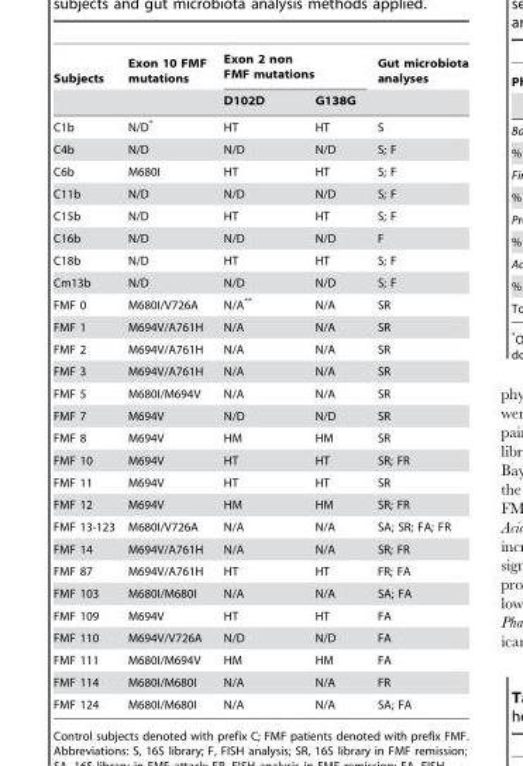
<table><thead><tr><td rowspan="2">Subjects</td><td rowspan="2">Exon 10 FMF mutations</td><td colspan="2">Exon 2 non FMF mutations</td><td rowspan="2">Gut microbiota analyses</td></tr><tr><td>D102D</td><td>G138G</td></tr></thead><tbody><tr><td>C1b</td><td>N/D*</td><td>HT</td><td>HT</td><td>S</td></tr><tr><td>C4b</td><td>N/D</td><td>N/D</td><td>N/D</td><td>S; F</td></tr><tr><td>C6b</td><td>M680I</td><td>HT</td><td>HT</td><td>S; F</td></tr><tr><td>C11b</td><td>N/D</td><td>N/D</td><td>N/D</td><td>S; F</td></tr><tr><td>C15b</td><td>N/D</td><td>HT</td><td>HT</td><td>S; F</td></tr><tr><td>C16b</td><td>N/D</td><td>N/D</td><td>N/D</td><td>F</td></tr><tr><td>C18b</td><td>N/D</td><td>HT</td><td>HT</td><td>S; F</td></tr><tr><td>Cm13b</td><td>N/D</td><td>N/D</td><td>N/D</td><td>S; F</td></tr><tr><td>FMF 0</td><td>M680I/V726A</td><td>N/A**</td><td>N/A</td><td>SR</td></tr><tr><td>FMF 1</td><td>M694V/A761H</td><td>N/A</td><td>N/A</td><td>SR</td></tr><tr><td>FMF 2</td><td>M694V/A761H</td><td>N/A</td><td>N/A</td><td>SR</td></tr><tr><td>FMF 3</td><td>M694V/A761H</td><td>N/A</td><td>N/A</td><td>SR</td></tr><tr><td>FMF 5</td><td>M680I/M694V</td><td>N/A</td><td>N/A</td><td>SR</td></tr><tr><td>FMF 7</td><td>M694V</td><td>N/D</td><td>N/D</td><td>SR</td></tr><tr><td>FMF 8</td><td>M694V</td><td>HM</td><td>HM</td><td>SR</td></tr><tr><td>FMF 10</td><td>M694V</td><td>HT</td><td>HT</td><td>SR; FR</td></tr><tr><td>FMF 11</td><td>M694V</td><td>HT</td><td>HT</td><td>SR</td></tr><tr><td>FMF 12</td><td>M694V</td><td>HM</td><td>HM</td><td>SR; FR</td></tr><tr><td>FMF 13-123</td><td>M680I/V726A</td><td>N/A</td><td>N/A</td><td>SA; SR; FA; FR</td></tr><tr><td>FMF 14</td><td>M694V/A761H</td><td>N/A</td><td>N/A</td><td>SR; FR</td></tr><tr><td>FMF 87</td><td>M694V/A761H</td><td>HT</td><td>HT</td><td>FR; FA</td></tr><tr><td>FMF 103</td><td>M680I/M680I</td><td>N/A</td><td>N/A</td><td>SA; FA</td></tr><tr><td>FMF 109</td><td>M694V</td><td>HT</td><td>HT</td><td>FA</td></tr><tr><td>FMF 110</td><td>M694V/V726A</td><td>N/D</td><td>N/D</td><td>FA</td></tr><tr><td>FMF 111</td><td>M680I/M694V</td><td>HM</td><td>HM</td><td>FA</td></tr><tr><td>FMF 114</td><td>M680I/M680I</td><td>N/A</td><td>N/A</td><td>FR</td></tr><tr><td>FMF 124</td><td>M680I/M680I</td><td>N/A</td><td>N/A</td><td>SA; FA</td></tr></tbody></table>